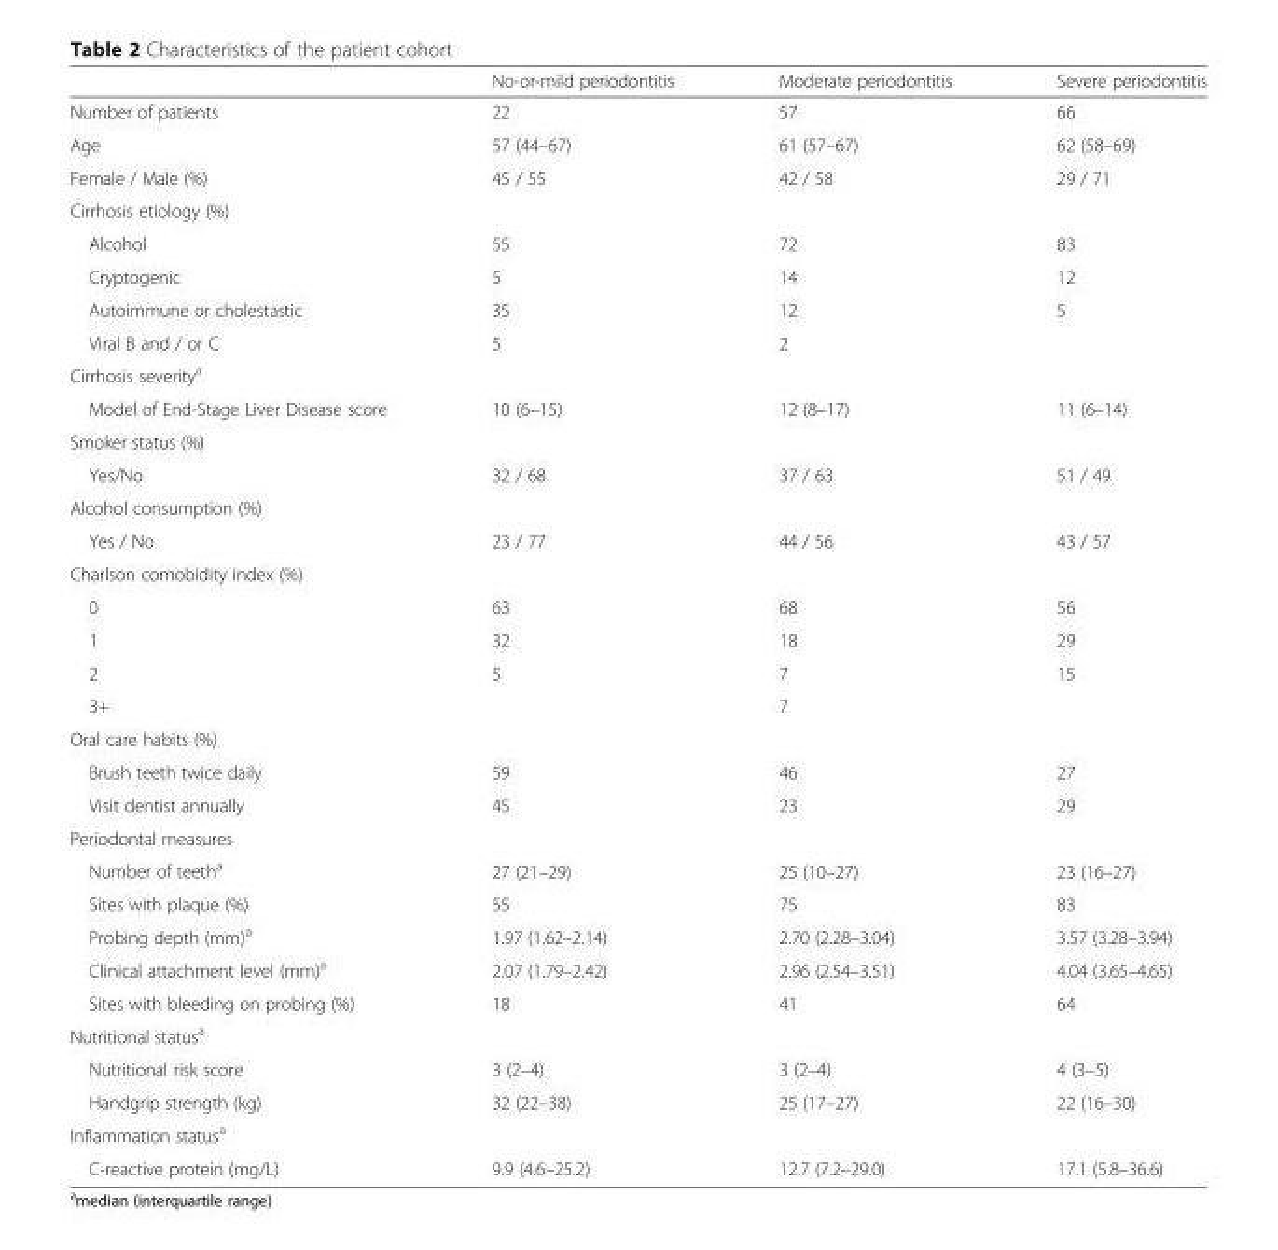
<table><thead><tr><td></td><td>No-or-mild periodontitis</td><td>Moderate periodontitis</td><td>Severe periodontitis</td></tr></thead><tbody><tr><td>Number of patients</td><td>22</td><td>57</td><td>66</td></tr><tr><td>Age</td><td>57 (44–67)</td><td>61 (57–67)</td><td>62 (58–69)</td></tr><tr><td>Female / Male (%)</td><td>45 / 55</td><td>42 / 58</td><td>29 / 71</td></tr><tr><td colspan="4">Cirrhosis etiology (%)</td></tr><tr><td>Alcohol</td><td>55</td><td>72</td><td>83</td></tr><tr><td>Cryptogenic</td><td>5</td><td>14</td><td>12</td></tr><tr><td>Autoimmune or cholestastic</td><td>35</td><td>12</td><td>5</td></tr><tr><td>Viral B and / or C</td><td>5</td><td>2</td><td></td></tr><tr><td colspan="4">Cirrhosis severity<sup>a</sup></td></tr><tr><td>Model of End-Stage Liver Disease score</td><td>10 (6–15)</td><td>12 (8–17)</td><td>11 (6–14)</td></tr><tr><td colspan="4">Smoker status (%)</td></tr><tr><td>Yes/No</td><td>32 / 68</td><td>37 / 63</td><td>51 / 49</td></tr><tr><td colspan="4">Alcohol consumption (%)</td></tr><tr><td>Yes / No</td><td>23 / 77</td><td>44 / 56</td><td>43 / 57</td></tr><tr><td colspan="4">Charlson comobidity index (%)</td></tr><tr><td>0</td><td>63</td><td>68</td><td>56</td></tr><tr><td>1</td><td>32</td><td>18</td><td>29</td></tr><tr><td>2</td><td>5</td><td>7</td><td>15</td></tr><tr><td>3+</td><td></td><td>7</td><td></td></tr><tr><td colspan="4">Oral care habits (%)</td></tr><tr><td>Brush teeth twice daily</td><td>59</td><td>46</td><td>27</td></tr><tr><td>Visit dentist annually</td><td>45</td><td>23</td><td>29</td></tr><tr><td colspan="4">Periodontal measures</td></tr><tr><td>Number of teeth<sup>a</sup></td><td>27 (21–29)</td><td>25 (10–27)</td><td>23 (16–27)</td></tr><tr><td>Sites with plaque (%)</td><td>55</td><td>75</td><td>83</td></tr><tr><td>Probing depth (mm)<sup>a</sup></td><td>1.97 (1.62–2.14)</td><td>2.70 (2.28–3.04)</td><td>3.57 (3.28–3.94)</td></tr><tr><td>Clinical attachment level (mm)<sup>a</sup></td><td>2.07 (1.79–2.42)</td><td>2.96 (2.54–3.51)</td><td>4.04 (3.65–4.65)</td></tr><tr><td>Sites with bleeding on probing (%)</td><td>18</td><td>41</td><td>64</td></tr><tr><td colspan="4">Nutritional status<sup>a</sup></td></tr><tr><td>Nutritional risk score</td><td>3 (2–4)</td><td>3 (2–4)</td><td>4 (3–5)</td></tr><tr><td>Handgrip strength (kg)</td><td>32 (22–38)</td><td>25 (17–27)</td><td>22 (16–30)</td></tr><tr><td colspan="4">Inflammation status<sup>a</sup></td></tr><tr><td>C-reactive protein (mg/L)</td><td>9.9 (4.6–25.2)</td><td>12.7 (7.2–29.0)</td><td>17.1 (5.8–36.6)</td></tr></tbody></table>